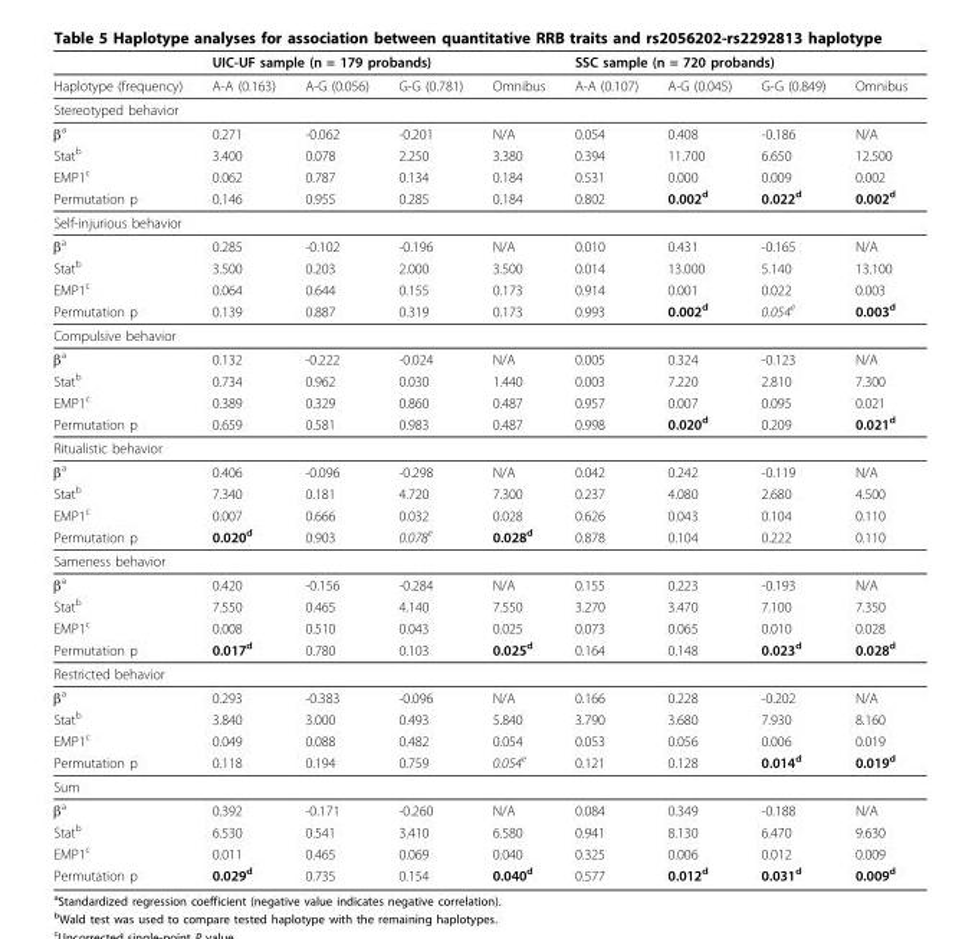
<table><thead><tr><td rowspan="2">Haplotype (frequency)</td><td colspan="4">UIC-UF sample (n = 179 probands)</td><td colspan="4">SSC sample (n = 720 probands)</td></tr><tr><td>A-A (0.163)</td><td>A-G (0.056)</td><td>G-G (0.781)</td><td>Omnibus</td><td>A-A (0.107)</td><td>A-G (0.045)</td><td>G-G (0.849)</td><td>Omnibus</td></tr></thead><tbody><tr><td colspan="9">Stereotyped behavior</td></tr><tr><td>β<sup>a</sup></td><td>0.271</td><td>-0.062</td><td>-0.201</td><td>N/A</td><td>0.054</td><td>0.408</td><td>-0.186</td><td>N/A</td></tr><tr><td>Stat<sup>b</sup></td><td>3.400</td><td>0.078</td><td>2.250</td><td>3.380</td><td>0.394</td><td>11.700</td><td>6.650</td><td>12.500</td></tr><tr><td>EMP1<sup>c</sup></td><td>0.062</td><td>0.787</td><td>0.134</td><td>0.184</td><td>0.531</td><td>0.000</td><td>0.009</td><td>0.002</td></tr><tr><td>Permutation p</td><td>0.146</td><td>0.955</td><td>0.285</td><td>0.184</td><td>0.802</td><td>0.002<sup>d</sup></td><td>0.022<sup>d</sup></td><td>0.002<sup>d</sup></td></tr><tr><td colspan="9">Self-injurious behavior</td></tr><tr><td>β<sup>a</sup></td><td>0.285</td><td>-0.102</td><td>-0.196</td><td>N/A</td><td>0.010</td><td>0.431</td><td>-0.165</td><td>N/A</td></tr><tr><td>Stat<sup>b</sup></td><td>3.500</td><td>0.203</td><td>2.000</td><td>3.500</td><td>0.014</td><td>13.000</td><td>5.140</td><td>13.100</td></tr><tr><td>EMP1<sup>c</sup></td><td>0.064</td><td>0.644</td><td>0.155</td><td>0.173</td><td>0.914</td><td>0.001</td><td>0.022</td><td>0.003</td></tr><tr><td>Permutation p</td><td>0.139</td><td>0.887</td><td>0.319</td><td>0.173</td><td>0.993</td><td>0.002<sup>d</sup></td><td>0.054<sup>e</sup></td><td>0.003<sup>d</sup></td></tr><tr><td colspan="9">Compulsive behavior</td></tr><tr><td>β<sup>a</sup></td><td>0.132</td><td>-0.222</td><td>-0.024</td><td>N/A</td><td>0.005</td><td>0.324</td><td>-0.123</td><td>N/A</td></tr><tr><td>Stat<sup>b</sup></td><td>0.734</td><td>0.962</td><td>0.030</td><td>1.440</td><td>0.003</td><td>7.220</td><td>2.810</td><td>7.300</td></tr><tr><td>EMP1<sup>c</sup></td><td>0.389</td><td>0.329</td><td>0.860</td><td>0.487</td><td>0.957</td><td>0.007</td><td>0.095</td><td>0.021</td></tr><tr><td>Permutation p</td><td>0.659</td><td>0.581</td><td>0.983</td><td>0.487</td><td>0.998</td><td>0.020<sup>d</sup></td><td>0.209</td><td>0.021<sup>d</sup></td></tr><tr><td colspan="9">Ritualistic behavior</td></tr><tr><td>β<sup>a</sup></td><td>0.406</td><td>-0.096</td><td>-0.298</td><td>N/A</td><td>0.042</td><td>0.242</td><td>-0.119</td><td>N/A</td></tr><tr><td>Stat<sup>b</sup></td><td>7.340</td><td>0.181</td><td>4.720</td><td>7.300</td><td>0.237</td><td>4.080</td><td>2.680</td><td>4.500</td></tr><tr><td>EMP1<sup>c</sup></td><td>0.007</td><td>0.666</td><td>0.032</td><td>0.028</td><td>0.626</td><td>0.043</td><td>0.104</td><td>0.110</td></tr><tr><td>Permutation p</td><td>0.020<sup>d</sup></td><td>0.903</td><td>0.078<sup>e</sup></td><td>0.028<sup>d</sup></td><td>0.878</td><td>0.104</td><td>0.222</td><td>0.110</td></tr><tr><td colspan="9">Sameness behavior</td></tr><tr><td>β<sup>a</sup></td><td>0.420</td><td>-0.156</td><td>-0.284</td><td>N/A</td><td>0.155</td><td>0.223</td><td>-0.193</td><td>N/A</td></tr><tr><td>Stat<sup>b</sup></td><td>7.550</td><td>0.465</td><td>4.140</td><td>7.550</td><td>3.270</td><td>3.470</td><td>7.100</td><td>7.350</td></tr><tr><td>EMP1<sup>c</sup></td><td>0.008</td><td>0.510</td><td>0.043</td><td>0.025</td><td>0.073</td><td>0.065</td><td>0.010</td><td>0.028</td></tr><tr><td>Permutation p</td><td>0.017<sup>d</sup></td><td>0.780</td><td>0.103</td><td>0.025<sup>d</sup></td><td>0.164</td><td>0.148</td><td>0.023<sup>d</sup></td><td>0.028<sup>d</sup></td></tr><tr><td colspan="9">Restricted behavior</td></tr><tr><td>β<sup>a</sup></td><td>0.293</td><td>-0.383</td><td>-0.096</td><td>N/A</td><td>0.166</td><td>0.228</td><td>-0.202</td><td>N/A</td></tr><tr><td>Stat<sup>b</sup></td><td>3.840</td><td>3.000</td><td>0.493</td><td>5.840</td><td>3.790</td><td>3.680</td><td>7.930</td><td>8.160</td></tr><tr><td>EMP1<sup>c</sup></td><td>0.049</td><td>0.088</td><td>0.482</td><td>0.054</td><td>0.053</td><td>0.056</td><td>0.006</td><td>0.019</td></tr><tr><td>Permutation p</td><td>0.118</td><td>0.194</td><td>0.759</td><td>0.054<sup>e</sup></td><td>0.121</td><td>0.128</td><td>0.014<sup>d</sup></td><td>0.019<sup>d</sup></td></tr><tr><td colspan="9">Sum</td></tr><tr><td>β<sup>a</sup></td><td>0.392</td><td>-0.171</td><td>-0.260</td><td>N/A</td><td>0.084</td><td>0.349</td><td>-0.188</td><td>N/A</td></tr><tr><td>Stat<sup>b</sup></td><td>6.530</td><td>0.541</td><td>3.410</td><td>6.580</td><td>0.941</td><td>8.130</td><td>6.470</td><td>9.630</td></tr><tr><td>EMP1<sup>c</sup></td><td>0.011</td><td>0.465</td><td>0.069</td><td>0.040</td><td>0.325</td><td>0.006</td><td>0.012</td><td>0.009</td></tr><tr><td>Permutation p</td><td>0.029<sup>d</sup></td><td>0.735</td><td>0.154</td><td>0.040<sup>d</sup></td><td>0.577</td><td>0.012<sup>d</sup></td><td>0.031<sup>d</sup></td><td>0.009<sup>d</sup></td></tr></tbody></table>